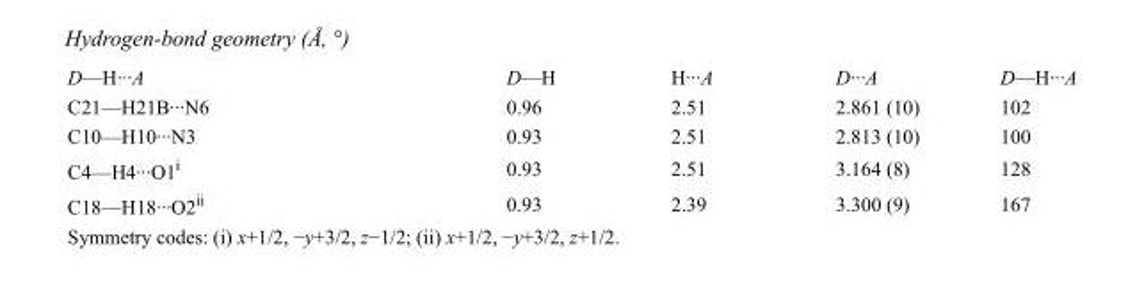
<table><tbody><tr><td>D—H···A</td><td>D—H</td><td>H···A</td><td>D···A</td><td>D—H···A</td></tr><tr><td>C21—H21B···N6</td><td>0.96</td><td>2.51</td><td>2.861 (10)</td><td>102</td></tr><tr><td>C10—H10···N3</td><td>0.93</td><td>2.51</td><td>2.813 (10)</td><td>100</td></tr><tr><td>C4—H4···O1<sup>i</sup></td><td>0.93</td><td>2.51</td><td>3.164 (8)</td><td>128</td></tr><tr><td>C18—H18···O2<sup>ii</sup></td><td>0.93</td><td>2.39</td><td>3.300 (9)</td><td>167</td></tr></tbody></table>